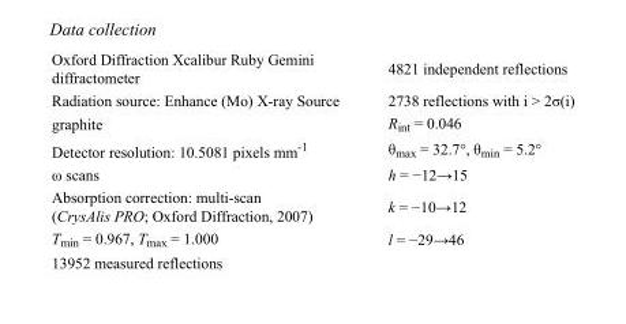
<table><tbody><tr><td>Oxford Diffraction Xcalibur Ruby Gemini diffractometer</td><td>4821 independent reflections</td></tr><tr><td>Radiation source: Enhance (Mo) X-ray Source</td><td>2738 reflections with i &gt; 2σ(i)</td></tr><tr><td>graphite</td><td>R<sub>int</sub> = 0.046</td></tr><tr><td>Detector resolution: 10.5081 pixels mm<sup>-1</sup></td><td>θ<sub>max</sub> = 32.7°, θ<sub>min</sub> = 5.2°</td></tr><tr><td>ω scans</td><td>h = −12→15</td></tr><tr><td>Absorption correction: multi-scan (CrysAlis PRO; Oxford Diffraction, 2007)</td><td>k = −10→12</td></tr><tr><td>T<sub>min</sub> = 0.967, T<sub>max</sub> = 1.000</td><td>l = −29→46</td></tr><tr><td>13952 measured reflections</td><td></td></tr></tbody></table>